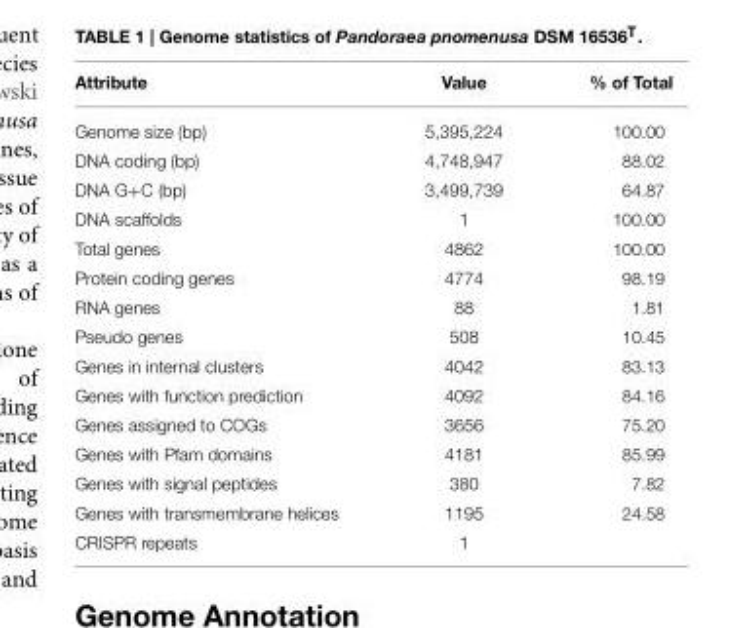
<table><thead><tr><td>Attribute</td><td>Value</td><td>% of Total</td></tr></thead><tbody><tr><td>Genome size (bp)</td><td>5,395,224</td><td>100.00</td></tr><tr><td>DNA coding (bp)</td><td>4,748,947</td><td>88.02</td></tr><tr><td>DNA G+C (bp)</td><td>3,499,739</td><td>64.87</td></tr><tr><td>DNA scaffolds</td><td>1</td><td>100.00</td></tr><tr><td>Total genes</td><td>4862</td><td>100.00</td></tr><tr><td>Protein coding genes</td><td>4774</td><td>98.19</td></tr><tr><td>RNA genes</td><td>88</td><td>1.81</td></tr><tr><td>Pseudo genes</td><td>508</td><td>10.45</td></tr><tr><td>Genes in internal clusters</td><td>4042</td><td>83.13</td></tr><tr><td>Genes with function prediction</td><td>4092</td><td>84.16</td></tr><tr><td>Genes assigned to COGs</td><td>3656</td><td>75.20</td></tr><tr><td>Genes with Pfam domains</td><td>4181</td><td>85.99</td></tr><tr><td>Genes with signal peptides</td><td>380</td><td>7.82</td></tr><tr><td>Genes with transmembrane helices</td><td>1195</td><td>24.58</td></tr><tr><td>CRISPR repeats</td><td>1</td><td></td></tr></tbody></table>